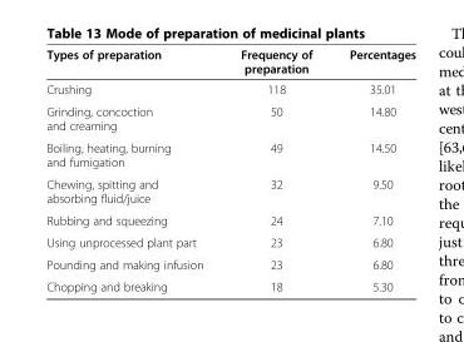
<table><thead><tr><td>Types of preparation</td><td>Frequency of preparation</td><td>Percentages</td></tr></thead><tbody><tr><td>Crushing</td><td>118</td><td>35.01</td></tr><tr><td>Grinding, concoction and creaming</td><td>50</td><td>14.80</td></tr><tr><td>Boiling, heating, burning and fumigation</td><td>49</td><td>14.50</td></tr><tr><td>Chewing, spitting and absorbing fluid/juice</td><td>32</td><td>9.50</td></tr><tr><td>Rubbing and squeezing</td><td>24</td><td>7.10</td></tr><tr><td>Using unprocessed plant part</td><td>23</td><td>6.80</td></tr><tr><td>Pounding and making infusion</td><td>23</td><td>6.80</td></tr><tr><td>Chopping and breaking</td><td>18</td><td>5.30</td></tr></tbody></table>